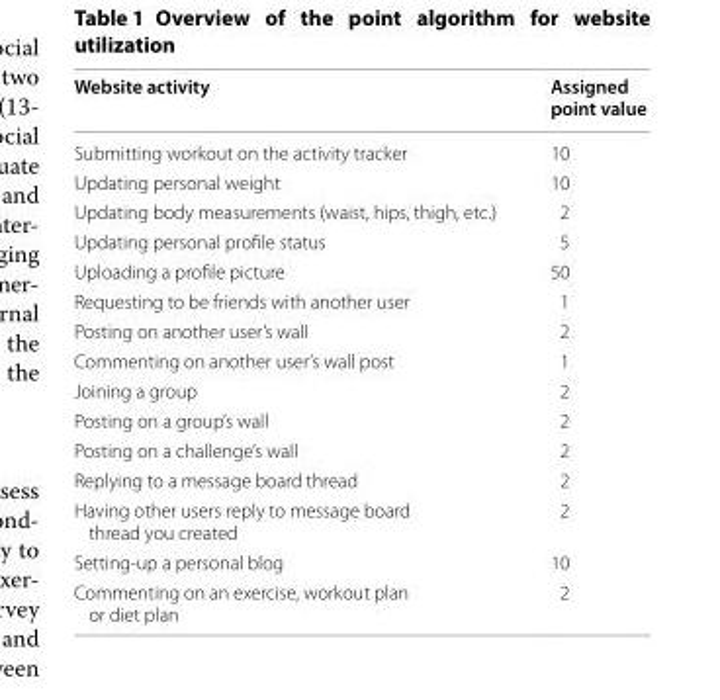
<table><thead><tr><td>Website activity</td><td>Assigned point value</td></tr></thead><tbody><tr><td>Submitting workout on the activity tracker</td><td>10</td></tr><tr><td>Updating personal weight</td><td>10</td></tr><tr><td>Updating body measurements (waist, hips, thigh, etc.)</td><td>2</td></tr><tr><td>Updating personal profile status</td><td>5</td></tr><tr><td>Uploading a profile picture</td><td>50</td></tr><tr><td>Requesting to be friends with another user</td><td>1</td></tr><tr><td>Posting on another user’s wall</td><td>2</td></tr><tr><td>Commenting on another user’s wall post</td><td>1</td></tr><tr><td>Joining a group</td><td>2</td></tr><tr><td>Posting on a group’s wall</td><td>2</td></tr><tr><td>Posting on a challenge’s wall</td><td>2</td></tr><tr><td>Replying to a message board thread</td><td>2</td></tr><tr><td>Having other users reply to message board thread you created</td><td>2</td></tr><tr><td>Setting-up a personal blog</td><td>10</td></tr><tr><td>Commenting on an exercise, workout plan or diet plan</td><td>2</td></tr></tbody></table>